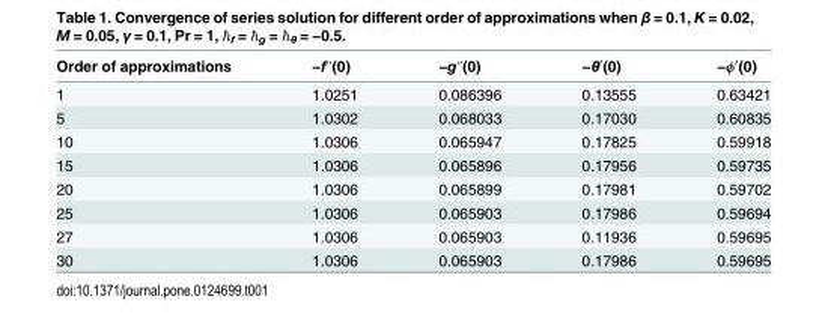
<table><thead><tr><td>Order of approximations</td><td>−f@(0)</td><td>−g@(0)</td><td>−θ<sup>′</sup>(0)</td><td>−ϕ<sup>′</sup>(0)</td></tr></thead><tbody><tr><td>1</td><td>1.0251</td><td>0.086396</td><td>0.13555</td><td>0.63421</td></tr><tr><td>5</td><td>1.0302</td><td>0.068033</td><td>0.17030</td><td>0.60835</td></tr><tr><td>10</td><td>1.0306</td><td>0.065947</td><td>0.17825</td><td>0.59918</td></tr><tr><td>15</td><td>1.0306</td><td>0.065896</td><td>0.17956</td><td>0.59735</td></tr><tr><td>20</td><td>1.0306</td><td>0.065899</td><td>0.17981</td><td>0.59702</td></tr><tr><td>25</td><td>1.0306</td><td>0.065903</td><td>0.17986</td><td>0.59694</td></tr><tr><td>27</td><td>1.0306</td><td>0.065903</td><td>0.11936</td><td>0.59695</td></tr><tr><td>30</td><td>1.0306</td><td>0.065903</td><td>0.17986</td><td>0.59695</td></tr></tbody></table>